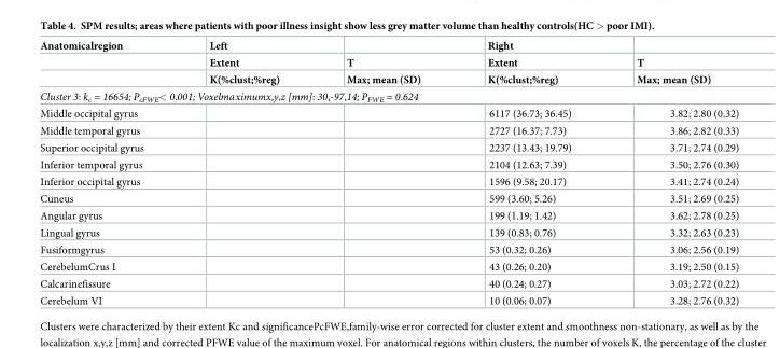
<table><thead><tr><td rowspan="3">Anatomicalregion</td><td rowspan="3">Left Extent K(%clust;%reg)</td><td rowspan="3">T Max; mean (SD)</td><td rowspan="3">Right Extent K(%clust;%reg)</td><td rowspan="3">T Max; mean (SD)</td></tr><tr></tr><tr></tr></thead><tbody><tr><td colspan="5">Cluster 3: k<sub>c</sub> = 16654; P<sub>cFWE</sub>&lt; 0.001; Voxelmaximumx,y,z [mm]: 30,-97,14; P<sub>FWE</sub> = 0.624</td></tr><tr><td>Middle occipital gyrus</td><td></td><td></td><td>6117 (36.73; 36.45)</td><td>3.82; 2.80 (0.32)</td></tr><tr><td>Middle temporal gyrus</td><td></td><td></td><td>2727 (16.37; 7.73)</td><td>3.86; 2.82 (0.33)</td></tr><tr><td>Superior occipital gyrus</td><td></td><td></td><td>2237 (13.43; 19.79)</td><td>3.71; 2.74 (0.29)</td></tr><tr><td>Inferior temporal gyrus</td><td></td><td></td><td>2104 (12.63; 7.39)</td><td>3.50; 2.76 (0.30)</td></tr><tr><td>Inferior occipital gyrus</td><td></td><td></td><td>1596 (9.58; 20.17)</td><td>3.41; 2.74 (0.24)</td></tr><tr><td>Cuneus</td><td></td><td></td><td>599 (3.60; 5.26)</td><td>3.51; 2.69 (0.25)</td></tr><tr><td>Angular gyrus</td><td></td><td></td><td>199 (1.19; 1.42)</td><td>3.62; 2.78 (0.25)</td></tr><tr><td>Lingual gyrus</td><td></td><td></td><td>139 (0.83; 0.76)</td><td>3.32; 2.63 (0.23)</td></tr><tr><td>Fusiformgyrus</td><td></td><td></td><td>53 (0.32; 0.26)</td><td>3.06; 2.56 (0.19)</td></tr><tr><td>CerebelumCrus I</td><td></td><td></td><td>43 (0.26; 0.20)</td><td>3.19; 2.50 (0.15)</td></tr><tr><td>Calcarinefissure</td><td></td><td></td><td>40 (0.24; 0.27)</td><td>3.03; 2.72 (0.22)</td></tr><tr><td>Cerebelum VI</td><td></td><td></td><td>10 (0.06; 0.07)</td><td>3.28; 2.76 (0.32)</td></tr></tbody></table>